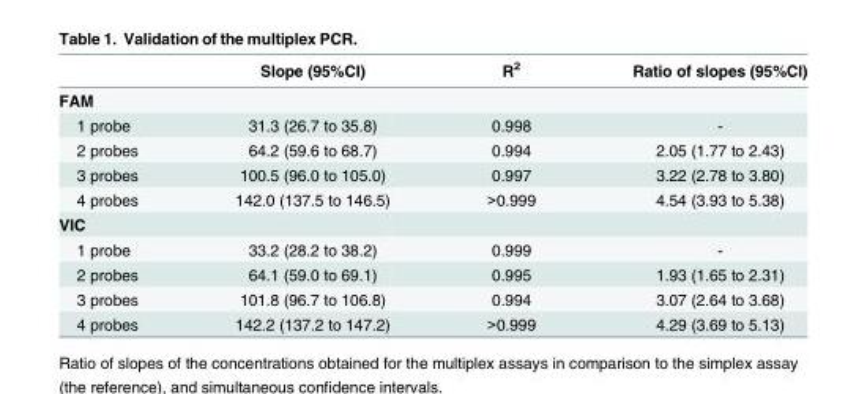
<table><thead><tr><td></td><td>Slope (95%CI)</td><td>R<sup>2</sup></td><td>Ratio of slopes (95%CI)</td></tr></thead><tbody><tr><td colspan="4">FAM</td></tr><tr><td>1 probe</td><td>31.3 (26.7 to 35.8)</td><td>0.998</td><td>-</td></tr><tr><td>2 probes</td><td>64.2 (59.6 to 68.7)</td><td>0.994</td><td>2.05 (1.77 to 2.43)</td></tr><tr><td>3 probes</td><td>100.5 (96.0 to 105.0)</td><td>0.997</td><td>3.22 (2.78 to 3.80)</td></tr><tr><td>4 probes</td><td>142.0 (137.5 to 146.5)</td><td>&gt;0.999</td><td>4.54 (3.93 to 5.38)</td></tr><tr><td colspan="4">VIC</td></tr><tr><td>1 probe</td><td>33.2 (28.2 to 38.2)</td><td>0.999</td><td>-</td></tr><tr><td>2 probes</td><td>64.1 (59.0 to 69.1)</td><td>0.995</td><td>1.93 (1.65 to 2.31)</td></tr><tr><td>3 probes</td><td>101.8 (96.7 to 106.8)</td><td>0.994</td><td>3.07 (2.64 to 3.68)</td></tr><tr><td>4 probes</td><td>142.2 (137.2 to 147.2)</td><td>&gt;0.999</td><td>4.29 (3.69 to 5.13)</td></tr></tbody></table>